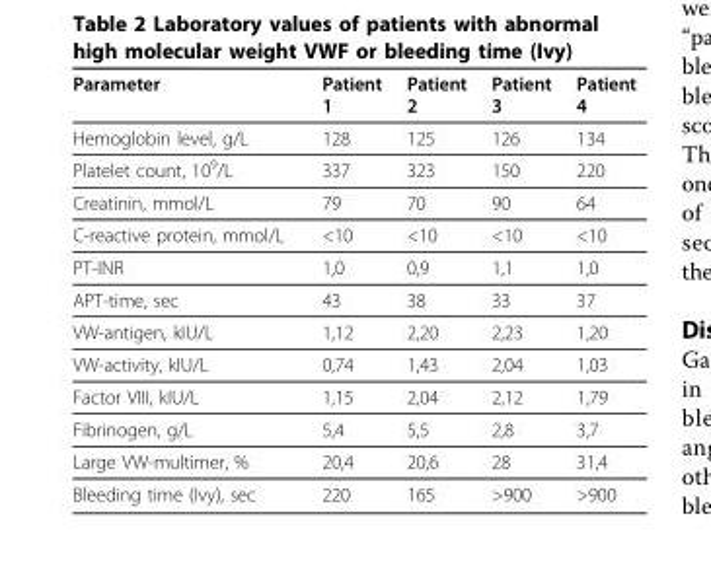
<table><thead><tr><td>Parameter</td><td>Patient 1</td><td>Patient 2</td><td>Patient 3</td><td>Patient 4</td></tr></thead><tbody><tr><td>Hemoglobin level, g/L</td><td>128</td><td>125</td><td>126</td><td>134</td></tr><tr><td>Platelet count, 10<sup>9</sup>/L</td><td>337</td><td>323</td><td>150</td><td>220</td></tr><tr><td>Creatinin, mmol/L</td><td>79</td><td>70</td><td>90</td><td>64</td></tr><tr><td>C-reactive protein, mmol/L</td><td>&lt;10</td><td>&lt;10</td><td>&lt;10</td><td>&lt;10</td></tr><tr><td>PT-INR</td><td>1,0</td><td>0,9</td><td>1,1</td><td>1,0</td></tr><tr><td>APT-time, sec</td><td>43</td><td>38</td><td>33</td><td>37</td></tr><tr><td>VW-antigen, kIU/L</td><td>1,12</td><td>2,20</td><td>2,23</td><td>1,20</td></tr><tr><td>VW-activity, kIU/L</td><td>0,74</td><td>1,43</td><td>2,04</td><td>1,03</td></tr><tr><td>Factor VIII, kIU/L</td><td>1,15</td><td>2,04</td><td>2,12</td><td>1,79</td></tr><tr><td>Fibrinogen, g/L</td><td>5,4</td><td>5,5</td><td>2,8</td><td>3,7</td></tr><tr><td>Large VW-multimer, %</td><td>20,4</td><td>20,6</td><td>28</td><td>31,4</td></tr><tr><td>Bleeding time (Ivy), sec</td><td>220</td><td>165</td><td>&gt;900</td><td>&gt;900</td></tr></tbody></table>